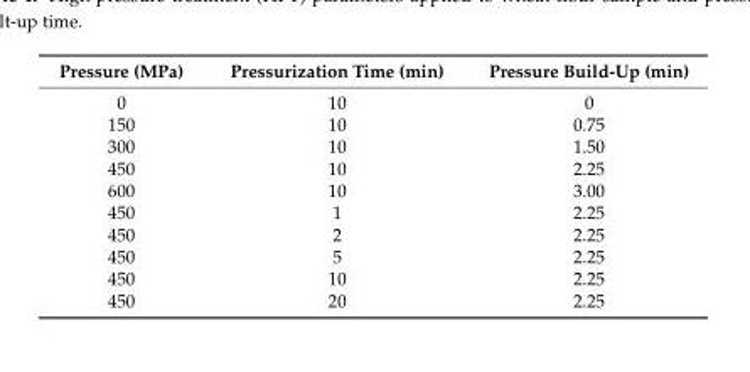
<table><thead><tr><td>Pressure (MPa)</td><td>Pressurization Time (min)</td><td>Pressure Build-Up (min)</td></tr></thead><tbody><tr><td>0</td><td>10</td><td>0</td></tr><tr><td>150</td><td>10</td><td>0.75</td></tr><tr><td>300</td><td>10</td><td>1.50</td></tr><tr><td>450</td><td>10</td><td>2.25</td></tr><tr><td>600</td><td>10</td><td>3.00</td></tr><tr><td>450</td><td>1</td><td>2.25</td></tr><tr><td>450</td><td>2</td><td>2.25</td></tr><tr><td>450</td><td>5</td><td>2.25</td></tr><tr><td>450</td><td>10</td><td>2.25</td></tr><tr><td>450</td><td>20</td><td>2.25</td></tr></tbody></table>